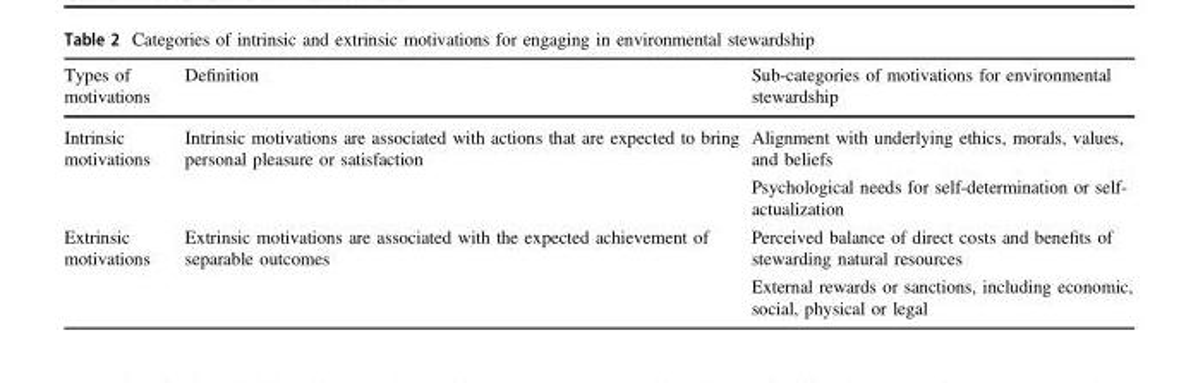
<table><thead><tr><td>Types of motivations</td><td>Definition</td><td>Sub-categories of motivations for environmental stewardship</td></tr></thead><tbody><tr><td rowspan="2">Intrinsic motivations</td><td rowspan="2">Intrinsic motivations are associated with actions that are expected to bring personal pleasure or satisfaction</td><td>Alignment with underlying ethics, morals, values, and beliefs</td></tr><tr><td>Psychological needs for self-determination or self- actualization</td></tr><tr><td rowspan="2">Extrinsic motivations</td><td rowspan="2">Extrinsic motivations are associated with the expected achievement of separable outcomes</td><td>Perceived balance of direct costs and benefits of stewarding natural resources</td></tr><tr><td>External rewards or sanctions, including economic, social, physical or legal</td></tr></tbody></table>